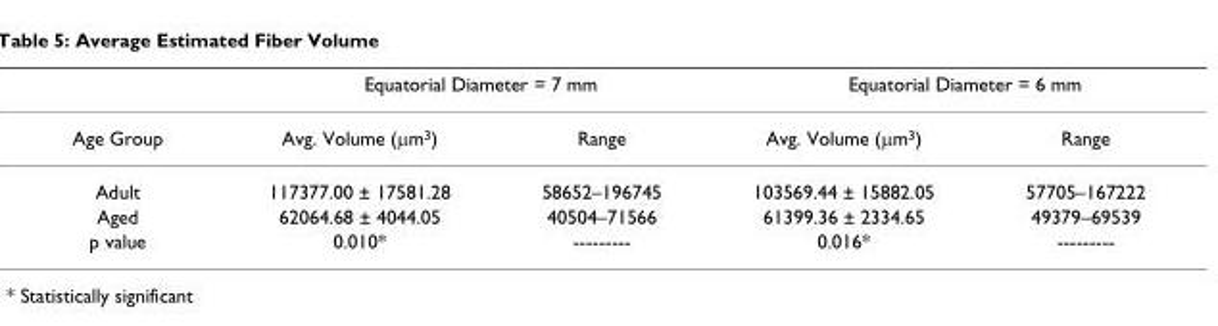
<table><thead><tr><td rowspan="2">Age Group</td><td colspan="2">Equatorial Diameter = 7 mm</td><td colspan="2">Equatorial Diameter = 6 mm</td></tr><tr><td>Avg. Volume (µm<sup>3</sup>)</td><td>Range</td><td>Avg. Volume (µm<sup>3</sup>)</td><td>Range</td></tr></thead><tbody><tr><td>Adult</td><td>117377.00 ± 17581.28</td><td>58652–196745</td><td>103569.44 ± 15882.05</td><td>57705–167222</td></tr><tr><td>Aged</td><td>62064.68 ± 4044.05</td><td>40504–71566</td><td>61399.36 ± 2334.65</td><td>49379–69539</td></tr><tr><td>p value</td><td>0.010*</td><td>---------</td><td>0.016*</td><td>---------</td></tr></tbody></table>